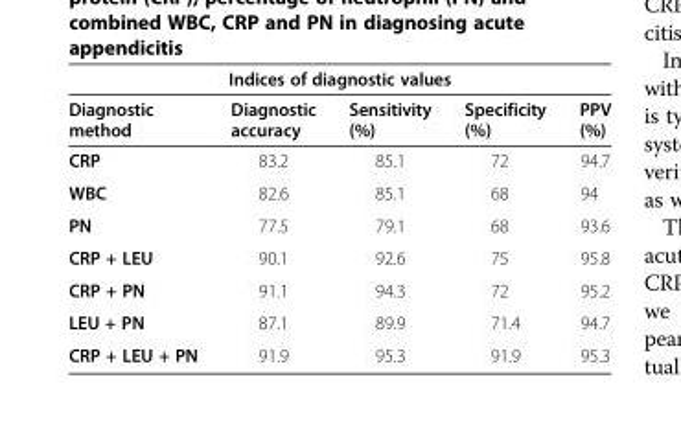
<table><thead><tr><td colspan="5">Indices of diagnostic values</td></tr><tr><td>Diagnostic method</td><td>Diagnostic accuracy</td><td>Sensitivity (%)</td><td>Specificity (%)</td><td>PPV (%)</td></tr></thead><tbody><tr><td>CRP</td><td>83.2</td><td>85.1</td><td>72</td><td>94.7</td></tr><tr><td>WBC</td><td>82.6</td><td>85.1</td><td>68</td><td>94</td></tr><tr><td>PN</td><td>77.5</td><td>79.1</td><td>68</td><td>93.6</td></tr><tr><td>CRP + LEU</td><td>90.1</td><td>92.6</td><td>75</td><td>95.8</td></tr><tr><td>CRP + PN</td><td>91.1</td><td>94.3</td><td>72</td><td>95.2</td></tr><tr><td>LEU + PN</td><td>87.1</td><td>89.9</td><td>71.4</td><td>94.7</td></tr><tr><td>CRP + LEU + PN</td><td>91.9</td><td>95.3</td><td>91.9</td><td>95.3</td></tr></tbody></table>